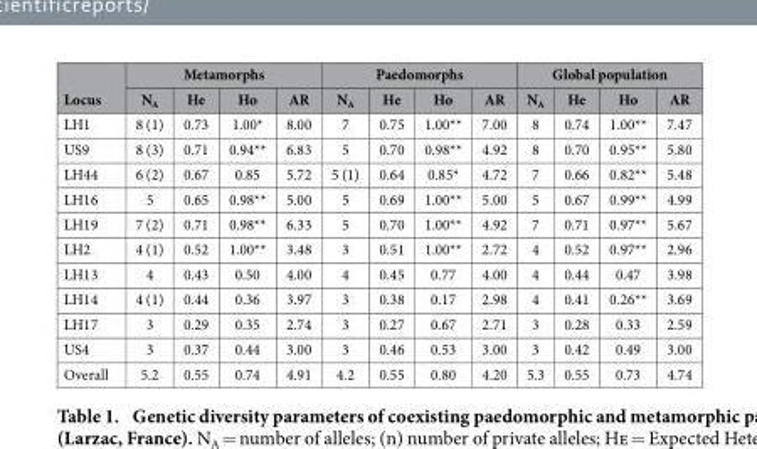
<table><thead><tr><td rowspan="2">Locus</td><td colspan="4">Metamorphs</td><td colspan="4">Paedomorphs</td><td colspan="4">Global population</td></tr><tr><td>N<sub>A</sub></td><td>He</td><td>Ho</td><td>AR</td><td>N<sub>A</sub></td><td>He</td><td>Ho</td><td>AR</td><td>N<sub>A</sub></td><td>He</td><td>Ho</td><td>AR</td></tr></thead><tbody><tr><td>LH1</td><td>8 (1)</td><td>0.73</td><td>1.00*</td><td>8.00</td><td>7</td><td>0.75</td><td>1.00**</td><td>7.00</td><td>8</td><td>0.74</td><td>1.00**</td><td>7.47</td></tr><tr><td>US9</td><td>8 (3)</td><td>0.71</td><td>0.94**</td><td>6.83</td><td>5</td><td>0.70</td><td>0.98**</td><td>4.92</td><td>8</td><td>0.70</td><td>0.95**</td><td>5.80</td></tr><tr><td>LH44</td><td>6 (2)</td><td>0.67</td><td>0.85</td><td>5.72</td><td>5 (1)</td><td>0.64</td><td>0.85*</td><td>4.72</td><td>7</td><td>0.66</td><td>0.82**</td><td>5.48</td></tr><tr><td>LH16</td><td>5</td><td>0.65</td><td>0.98**</td><td>5.00</td><td>5</td><td>0.69</td><td>1.00**</td><td>5.00</td><td>5</td><td>0.67</td><td>0.99**</td><td>4.99</td></tr><tr><td>LH19</td><td>7 (2)</td><td>0.71</td><td>0.98**</td><td>6.33</td><td>5</td><td>0.70</td><td>1.00**</td><td>4.92</td><td>7</td><td>0.71</td><td>0.97**</td><td>5.67</td></tr><tr><td>LH2</td><td>4 (1)</td><td>0.52</td><td>1.00**</td><td>3.48</td><td>3</td><td>0.51</td><td>1.00**</td><td>2.72</td><td>4</td><td>0.52</td><td>0.97**</td><td>2.96</td></tr><tr><td>LH13</td><td>4</td><td>0.43</td><td>0.50</td><td>4.00</td><td>4</td><td>0.45</td><td>0.77</td><td>4.00</td><td>4</td><td>0.44</td><td>0.47</td><td>3.98</td></tr><tr><td>LH14</td><td>4 (1)</td><td>0.44</td><td>0.36</td><td>3.97</td><td>3</td><td>0.38</td><td>0.17</td><td>2.98</td><td>4</td><td>0.41</td><td>0.26**</td><td>3.69</td></tr><tr><td>LH17</td><td>3</td><td>0.29</td><td>0.35</td><td>2.74</td><td>3</td><td>0.27</td><td>0.67</td><td>2.71</td><td>3</td><td>0.28</td><td>0.33</td><td>2.59</td></tr><tr><td>US4</td><td>3</td><td>0.37</td><td>0.44</td><td>3.00</td><td>3</td><td>0.46</td><td>0.53</td><td>3.00</td><td>3</td><td>0.42</td><td>0.49</td><td>3.00</td></tr><tr><td>Overall</td><td>5.2</td><td>0.55</td><td>0.74</td><td>4.91</td><td>4.2</td><td>0.55</td><td>0.80</td><td>4.20</td><td>5.3</td><td>0.55</td><td>0.73</td><td>4.74</td></tr></tbody></table>